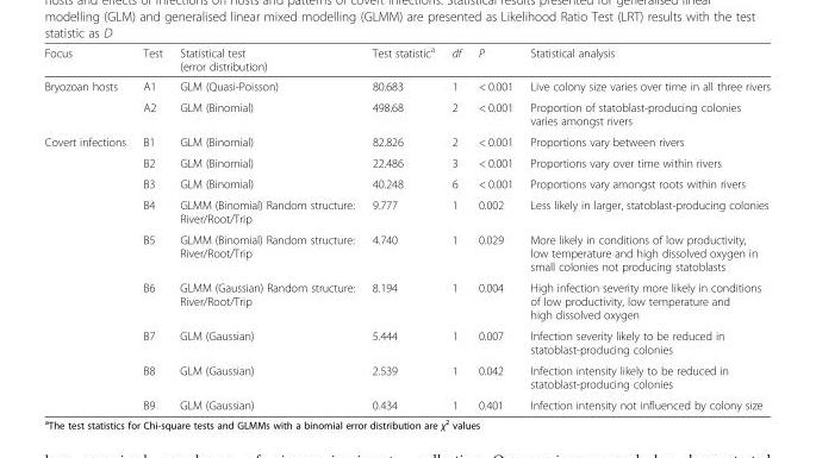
<table><thead><tr><td>Focus</td><td>Test</td><td>Statistical test (error distribution)</td><td>Test statistic<sup>a</sup></td><td>df</td><td>P</td><td>Statistical analysis</td></tr></thead><tbody><tr><td rowspan="2">Bryozoan hosts</td><td>A1</td><td>GLM (Quasi-Poisson)</td><td>80.683</td><td>1</td><td>&lt; 0.001</td><td>Live colony size varies over time in all three rivers</td></tr><tr><td>A2</td><td>GLM (Binomial)</td><td>498.68</td><td>2</td><td>&lt; 0.001</td><td>Proportion of statoblast-producing colonies varies amongst rivers</td></tr><tr><td rowspan="9">Covert infections</td><td>B1</td><td>GLM (Binomial)</td><td>82.826</td><td>2</td><td>&lt; 0.001</td><td>Proportions vary between rivers</td></tr><tr><td>B2</td><td>GLM (Binomial)</td><td>22.486</td><td>3</td><td>&lt; 0.001</td><td>Proportions vary over time within rivers</td></tr><tr><td>B3</td><td>GLM (Binomial)</td><td>40.248</td><td>6</td><td>&lt; 0.001</td><td>Proportions vary amongst roots within rivers</td></tr><tr><td>B4</td><td>GLMM (Binomial) Random structure: River/Root/Trip</td><td>9.777</td><td>1</td><td>0.002</td><td>Less likely in larger, statoblast-producing colonies</td></tr><tr><td>B5</td><td>GLMM (Binomial) Random structure: River/Root/Trip</td><td>4.740</td><td>1</td><td>0.029</td><td>More likely in conditions of low productivity, low temperature and high dissolved oxygen in small colonies not producing statoblasts</td></tr><tr><td>B6</td><td>GLMM (Gaussian) Random structure: River/Root/Trip</td><td>8.194</td><td>1</td><td>0.004</td><td>High infection severity more likely in conditions of low productivity, low temperature and high dissolved oxygen</td></tr><tr><td>B7</td><td>GLM (Gaussian)</td><td>5.444</td><td>1</td><td>0.007</td><td>Infection severity likely to be reduced in statoblast-producing colonies</td></tr><tr><td>B8</td><td>GLM (Gaussian)</td><td>2.539</td><td>1</td><td>0.042</td><td>Infection intensity likely to be reduced in statoblast-producing colonies</td></tr><tr><td>B9</td><td>GLM (Gaussian)</td><td>0.434</td><td>1</td><td>0.401</td><td>Infection intensity not influenced by colony size</td></tr></tbody></table>